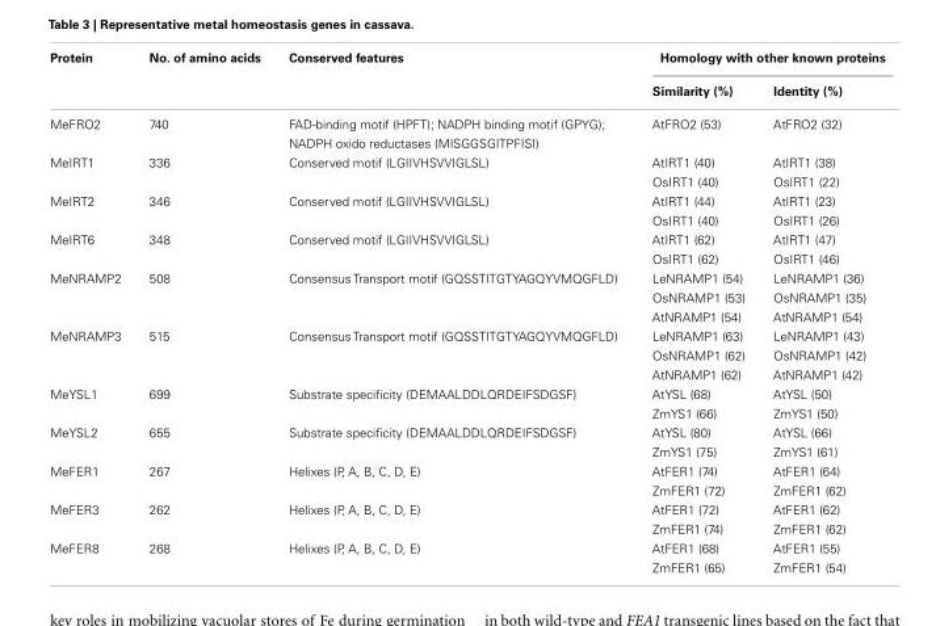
<table><thead><tr><td rowspan="2">Protein</td><td rowspan="2">No. of amino acids</td><td rowspan="2">Conserved features</td><td colspan="2">Homology with other known proteins</td></tr><tr><td>Similarity (%)</td><td>Identity (%)</td></tr></thead><tbody><tr><td>MeFRO2</td><td>740</td><td>FAD-binding motif (HPFT); NADPH binding motif (GPYG); NADPH oxido reductases (MISGGSGITPFISI)</td><td>AtFRO2 (53)</td><td>AtFRO2 (32)</td></tr><tr><td rowspan="2">MeIRT1</td><td>336</td><td>Conserved motif (LGIIVHSVVIGLSL)</td><td>AtIRT1 (40)</td><td>AtIRT1 (38)</td></tr><tr><td></td><td></td><td>OsIRT1 (40)</td><td>OsIRT1 (22)</td></tr><tr><td rowspan="2">MeIRT2</td><td>346</td><td>Conserved motif (LGIIVHSVVIGLSL)</td><td>AtIRT1 (44)</td><td>AtIRT1 (23)</td></tr><tr><td></td><td></td><td>OsIRT1 (40)</td><td>OsIRT1 (26)</td></tr><tr><td rowspan="2">MeIRT6</td><td>348</td><td>Conserved motif (LGIIVHSVVIGLSL)</td><td>AtIRT1 (62)</td><td>AtIRT1 (47)</td></tr><tr><td></td><td></td><td>OsIRT1 (62)</td><td>OsIRT1 (46)</td></tr><tr><td rowspan="3">MeNRAMP2</td><td>508</td><td>Consensus Transport motif (GQSSTITGTYAGQYVMQGFLD)</td><td>LeNRAMP1 (54)</td><td>LeNRAMP1 (36)</td></tr><tr><td></td><td></td><td>OsNRAMP1 (53)</td><td>OsNRAMP1 (35)</td></tr><tr><td></td><td></td><td>AtNRAMP1 (54)</td><td>AtNRAMP1 (54)</td></tr><tr><td rowspan="3">MeNRAMP3</td><td>515</td><td>Consensus Transport motif (GQSSTITGTYAGQYVMQGFLD)</td><td>LeNRAMP1 (63)</td><td>LeNRAMP1 (43)</td></tr><tr><td></td><td></td><td>OsNRAMP1 (62)</td><td>OsNRAMP1 (42)</td></tr><tr><td></td><td></td><td>AtNRAMP1 (62)</td><td>AtNRAMP1 (42)</td></tr><tr><td rowspan="2">MeYSL1</td><td>699</td><td>Substrate specificity (DEMAALDDLQRDEIFSDGSF)</td><td>AtYSL (68)</td><td>AtYSL (50)</td></tr><tr><td></td><td></td><td>ZmYS1 (66)</td><td>ZmYS1 (50)</td></tr><tr><td rowspan="2">MeYSL2</td><td>655</td><td>Substrate specificity (DEMAALDDLQRDEIFSDGSF)</td><td>AtYSL (80)</td><td>AtYSL (66)</td></tr><tr><td></td><td></td><td>ZmYS1 (75)</td><td>ZmYS1 (61)</td></tr><tr><td rowspan="2">MeFER1</td><td>267</td><td>Helixes (P, A, B, C, D, E)</td><td>AtFER1 (74)</td><td>AtFER1 (64)</td></tr><tr><td></td><td></td><td>ZmFER1 (72)</td><td>ZmFER1 (62)</td></tr><tr><td rowspan="2">MeFER3</td><td>262</td><td>Helixes (P, A, B, C, D, E)</td><td>AtFER1 (72)</td><td>AtFER1 (62)</td></tr><tr><td></td><td></td><td>ZmFER1 (74)</td><td>ZmFER1 (62)</td></tr><tr><td rowspan="2">MeFER8</td><td>268</td><td>Helixes (P, A, B, C, D, E)</td><td>AtFER1 (68)</td><td>AtFER1 (55)</td></tr><tr><td></td><td></td><td>ZmFER1 (65)</td><td>ZmFER1 (54)</td></tr></tbody></table>